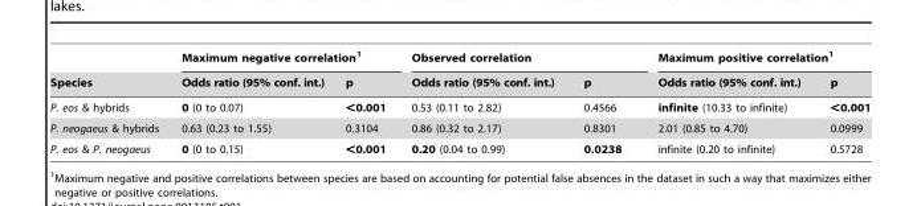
<table><thead><tr><td rowspan="2">Species</td><td colspan="2">Maximum negative correlation<sup>1</sup></td><td colspan="2">Observed correlation</td><td colspan="2">Maximum positive correlation<sup>1</sup></td></tr><tr><td>Odds ratio (95% conf. int.)</td><td>p</td><td>Odds ratio (95% conf. int.)</td><td>p</td><td>Odds ratio (95% conf. int.)</td><td>p</td></tr></thead><tbody><tr><td>P. eos &amp; hybrids</td><td>0 (0 to 0.07)</td><td>&lt;0.001</td><td>0.53 (0.11 to 2.82)</td><td>0.4566</td><td>infinite (10.33 to infinite)</td><td>&lt;0.001</td></tr><tr><td>P. neogaeus &amp; hybrids</td><td>0.63 (0.23 to 1.55)</td><td>0.3104</td><td>0.86 (0.32 to 2.17)</td><td>0.8301</td><td>2.01 (0.85 to 4.70)</td><td>0.0999</td></tr><tr><td>P. eos &amp; P. neogaeus</td><td>0 (0 to 0.15)</td><td>&lt;0.001</td><td>0.20 (0.04 to 0.99)</td><td>0.0238</td><td>infinite (0.20 to infinite)</td><td>0.5728</td></tr></tbody></table>